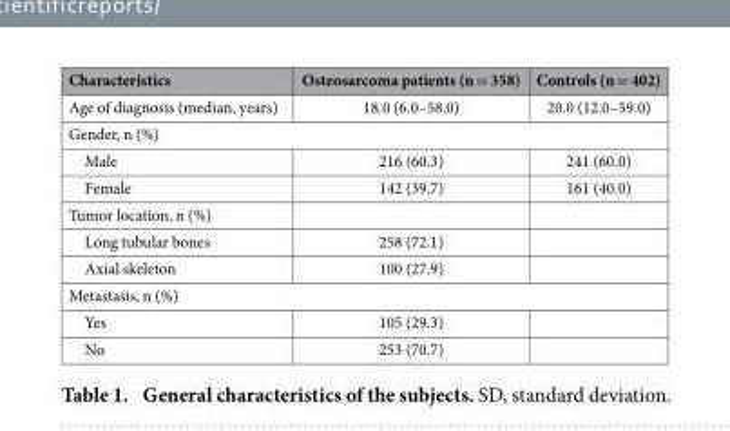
<table><thead><tr><td>Characteristics</td><td>Osteosarcoma patients (n = 358)</td><td>Controls (n = 402)</td></tr></thead><tbody><tr><td>Age of diagnosis (median, years)</td><td>18.0 (6.0–58.0)</td><td>20.0 (12.0–59.0)</td></tr><tr><td colspan="3">Gender, n (%)</td></tr><tr><td>Male</td><td>216 (60.3)</td><td>241 (60.0)</td></tr><tr><td>Female</td><td>142 (39.7)</td><td>161 (40.0)</td></tr><tr><td colspan="3">Tumor location, n (%)</td></tr><tr><td>Long tubular bones</td><td>258 (72.1)</td><td></td></tr><tr><td>Axial skeleton</td><td>100 (27.9)</td><td></td></tr><tr><td colspan="3">Metastasis, n (%)</td></tr><tr><td>Yes</td><td>105 (29.3)</td><td></td></tr><tr><td>No</td><td>253 (70.7)</td><td></td></tr></tbody></table>